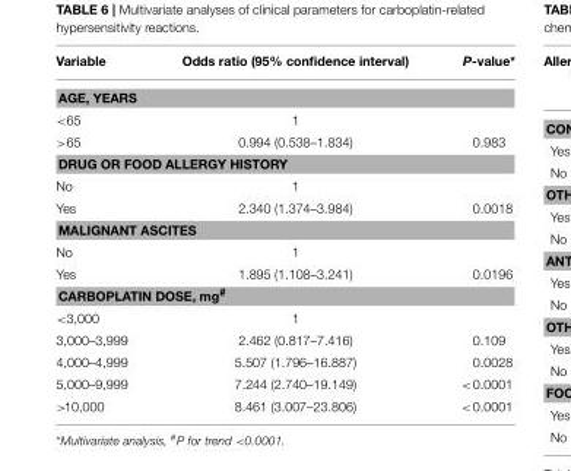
<table><thead><tr><td>Variable</td><td>Odds ratio (95% confidence interval)</td><td>P-value*</td></tr></thead><tbody><tr><td colspan="3">AGE, YEARS</td></tr><tr><td>&lt;65</td><td>1</td><td></td></tr><tr><td>&gt;65</td><td>0.994 (0.538–1.834)</td><td>0.983</td></tr><tr><td colspan="3">DRUG OR FOOD ALLERGY HISTORY</td></tr><tr><td>No</td><td>1</td><td></td></tr><tr><td>Yes</td><td>2.340 (1.374–3.984)</td><td>0.0018</td></tr><tr><td colspan="3">MALIGNANT ASCITES</td></tr><tr><td>No</td><td>1</td><td></td></tr><tr><td>Yes</td><td>1.895 (1.108–3.241)</td><td>0.0196</td></tr><tr><td colspan="3">CARBOPLATIN DOSE, mg<sup>#</sup></td></tr><tr><td>&lt;3,000</td><td>1</td><td></td></tr><tr><td>3,000–3,999</td><td>2.462 (0.817–7.416)</td><td>0.109</td></tr><tr><td>4,000–4,999</td><td>5.507 (1.796–16.887)</td><td>0.0028</td></tr><tr><td>5,000–9,999</td><td>7.244 (2.740–19.149)</td><td>&lt;0.0001</td></tr><tr><td>&gt;10,000</td><td>8.461 (3.007–23.806)</td><td>&lt;0.0001</td></tr></tbody></table>